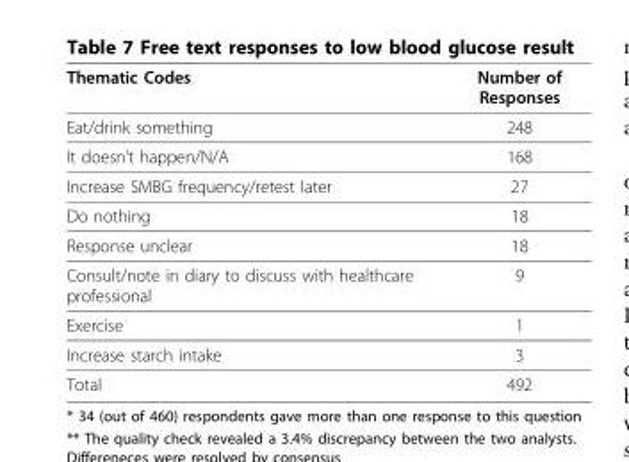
<table><thead><tr><td>Thematic Codes</td><td>Number of Responses</td></tr></thead><tbody><tr><td>Eat/drink something</td><td>248</td></tr><tr><td>It doesn’t happen/N/A</td><td>168</td></tr><tr><td>Increase SMBG frequency/retest later</td><td>27</td></tr><tr><td>Do nothing</td><td>18</td></tr><tr><td>Response unclear</td><td>18</td></tr><tr><td>Consult/note in diary to discuss with healthcare professional</td><td>9</td></tr><tr><td>Exercise</td><td>1</td></tr><tr><td>Increase starch intake</td><td>3</td></tr><tr><td>Total</td><td>492</td></tr></tbody></table>